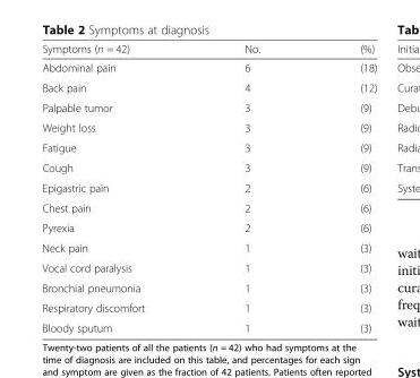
<table><thead><tr><td>Symptoms (n = 42)</td><td>No.</td><td>(%)</td></tr></thead><tbody><tr><td>Abdominal pain</td><td>6</td><td>(18)</td></tr><tr><td>Back pain</td><td>4</td><td>(12)</td></tr><tr><td>Palpable tumor</td><td>3</td><td>(9)</td></tr><tr><td>Weight loss</td><td>3</td><td>(9)</td></tr><tr><td>Fatigue</td><td>3</td><td>(9)</td></tr><tr><td>Cough</td><td>3</td><td>(9)</td></tr><tr><td>Epigastric pain</td><td>2</td><td>(6)</td></tr><tr><td>Chest pain</td><td>2</td><td>(6)</td></tr><tr><td>Pyrexia</td><td>2</td><td>(6)</td></tr><tr><td>Neck pain</td><td>1</td><td>(3)</td></tr><tr><td>Vocal cord paralysis</td><td>1</td><td>(3)</td></tr><tr><td>Bronchial pneumonia</td><td>1</td><td>(3)</td></tr><tr><td>Respiratory discomfort</td><td>1</td><td>(3)</td></tr><tr><td>Bloody sputum</td><td>1</td><td>(3)</td></tr></tbody></table>